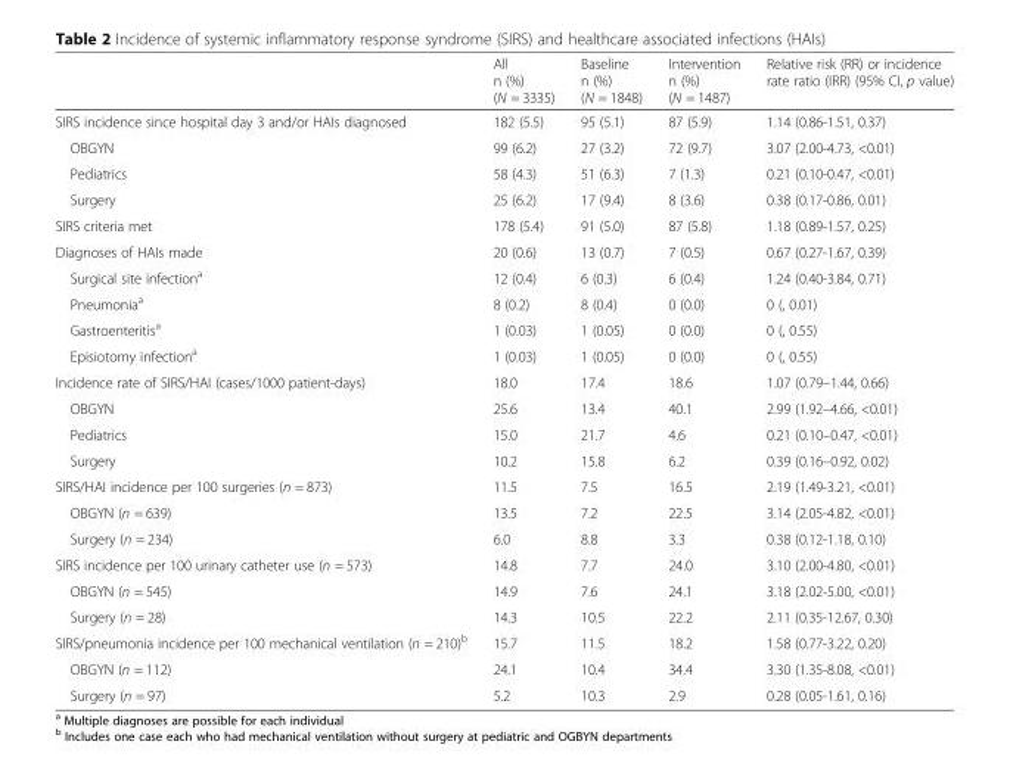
<table><thead><tr><td></td><td>All n (%) (N = 3335)</td><td>Baseline n (%) (N = 1848)</td><td>Intervention n (%) (N = 1487)</td><td>Relative risk (RR) or incidence rate ratio (IRR) (95% CI, p value)</td></tr></thead><tbody><tr><td>SIRS incidence since hospital day 3 and/or HAIs diagnosed</td><td>182 (5.5)</td><td>95 (5.1)</td><td>87 (5.9)</td><td>1.14 (0.86-1.51, 0.37)</td></tr><tr><td>OBGYN</td><td>99 (6.2)</td><td>27 (3.2)</td><td>72 (9.7)</td><td>3.07 (2.00-4.73, &lt;0.01)</td></tr><tr><td>Pediatrics</td><td>58 (4.3)</td><td>51 (6.3)</td><td>7 (1.3)</td><td>0.21 (0.10-0.47, &lt;0.01)</td></tr><tr><td>Surgery</td><td>25 (6.2)</td><td>17 (9.4)</td><td>8 (3.6)</td><td>0.38 (0.17-0.86, 0.01)</td></tr><tr><td>SIRS criteria met</td><td>178 (5.4)</td><td>91 (5.0)</td><td>87 (5.8)</td><td>1.18 (0.89-1.57, 0.25)</td></tr><tr><td>Diagnoses of HAIs made</td><td>20 (0.6)</td><td>13 (0.7)</td><td>7 (0.5)</td><td>0.67 (0.27-1.67, 0.39)</td></tr><tr><td>Surgical site infection<sup>a</sup></td><td>12 (0.4)</td><td>6 (0.3)</td><td>6 (0.4)</td><td>1.24 (0.40-3.84, 0.71)</td></tr><tr><td>Pneumonia<sup>a</sup></td><td>8 (0.2)</td><td>8 (0.4)</td><td>0 (0.0)</td><td>0 (, 0.01)</td></tr><tr><td>Gastroenteritis<sup>a</sup></td><td>1 (0.03)</td><td>1 (0.05)</td><td>0 (0.0)</td><td>0 (, 0.55)</td></tr><tr><td>Episiotomy infection<sup>a</sup></td><td>1 (0.03)</td><td>1 (0.05)</td><td>0 (0.0)</td><td>0 (, 0.55)</td></tr><tr><td>Incidence rate of SIRS/HAI (cases/1000 patient-days)</td><td>18.0</td><td>17.4</td><td>18.6</td><td>1.07 (0.79–1.44, 0.66)</td></tr><tr><td>OBGYN</td><td>25.6</td><td>13.4</td><td>40.1</td><td>2.99 (1.92–4.66, &lt;0.01)</td></tr><tr><td>Pediatrics</td><td>15.0</td><td>21.7</td><td>4.6</td><td>0.21 (0.10–0.47, &lt;0.01)</td></tr><tr><td>Surgery</td><td>10.2</td><td>15.8</td><td>6.2</td><td>0.39 (0.16–0.92, 0.02)</td></tr><tr><td>SIRS/HAI incidence per 100 surgeries (n = 873)</td><td>11.5</td><td>7.5</td><td>16.5</td><td>2.19 (1.49-3.21, &lt;0.01)</td></tr><tr><td>OBGYN (n = 639)</td><td>13.5</td><td>7.2</td><td>22.5</td><td>3.14 (2.05-4.82, &lt;0.01)</td></tr><tr><td>Surgery (n = 234)</td><td>6.0</td><td>8.8</td><td>3.3</td><td>0.38 (0.12-1.18, 0.10)</td></tr><tr><td>SIRS incidence per 100 urinary catheter use (n = 573)</td><td>14.8</td><td>7.7</td><td>24.0</td><td>3.10 (2.00-4.80, &lt;0.01)</td></tr><tr><td>OBGYN (n = 545)</td><td>14.9</td><td>7.6</td><td>24.1</td><td>3.18 (2.02-5.00, &lt;0.01)</td></tr><tr><td>Surgery (n = 28)</td><td>14.3</td><td>10.5</td><td>22.2</td><td>2.11 (0.35-12.67, 0.30)</td></tr><tr><td>SIRS/pneumonia incidence per 100 mechanical ventilation (n = 210)<sup>b</sup></td><td>15.7</td><td>11.5</td><td>18.2</td><td>1.58 (0.77-3.22, 0.20)</td></tr><tr><td>OBGYN (n = 112)</td><td>24.1</td><td>10.4</td><td>34.4</td><td>3.30 (1.35-8.08, &lt;0.01)</td></tr><tr><td>Surgery (n = 97)</td><td>5.2</td><td>10.3</td><td>2.9</td><td>0.28 (0.05-1.61, 0.16)</td></tr></tbody></table>